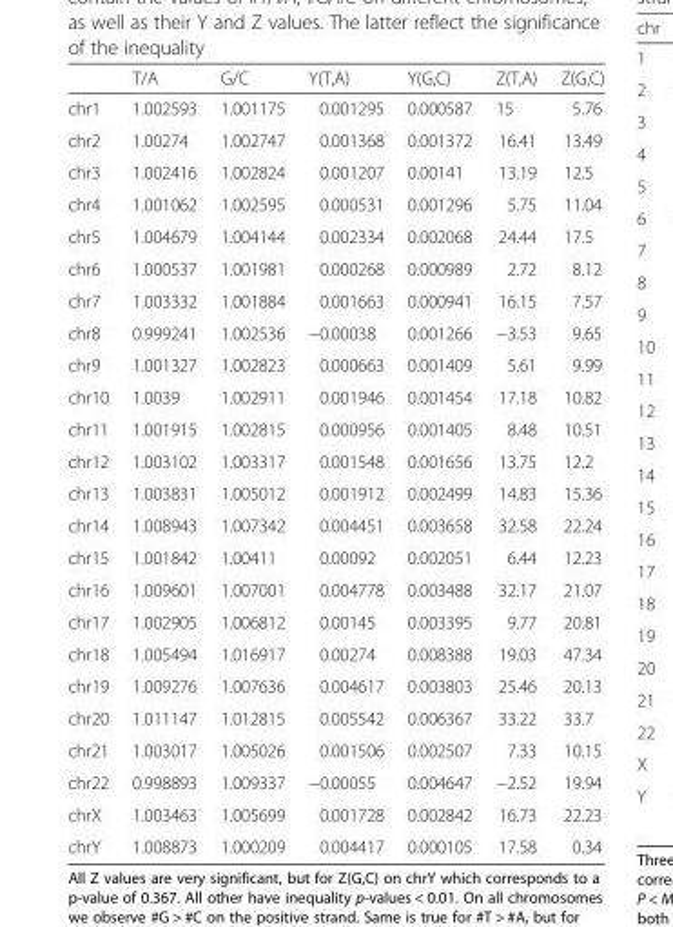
<table><thead><tr><td></td><td>T/A</td><td>G/C</td><td>Y(T,A)</td><td>Y(G,C)</td><td>Z(T,A)</td><td>Z(G,C)</td></tr></thead><tbody><tr><td>chr1</td><td>1.002593</td><td>1.001175</td><td>0.001295</td><td>0.000587</td><td>15</td><td>5.76</td></tr><tr><td>chr2</td><td>1.00274</td><td>1.002747</td><td>0.001368</td><td>0.001372</td><td>16.41</td><td>13.49</td></tr><tr><td>chr3</td><td>1.002416</td><td>1.002824</td><td>0.001207</td><td>0.00141</td><td>13.19</td><td>12.5</td></tr><tr><td>chr4</td><td>1.001062</td><td>1.002595</td><td>0.000531</td><td>0.001296</td><td>5.75</td><td>11.04</td></tr><tr><td>chr5</td><td>1.004679</td><td>1.004144</td><td>0.002334</td><td>0.002068</td><td>24.44</td><td>17.5</td></tr><tr><td>chr6</td><td>1.000537</td><td>1.001981</td><td>0.000268</td><td>0.000989</td><td>2.72</td><td>8.12</td></tr><tr><td>chr7</td><td>1.003332</td><td>1.001884</td><td>0.001663</td><td>0.000941</td><td>16.15</td><td>7.57</td></tr><tr><td>chr8</td><td>0.999241</td><td>1.002536</td><td>−0.00038</td><td>0.001266</td><td>−3.53</td><td>9.65</td></tr><tr><td>chr9</td><td>1.001327</td><td>1.002823</td><td>0.000663</td><td>0.001409</td><td>5.61</td><td>9.99</td></tr><tr><td>chr10</td><td>1.0039</td><td>1.002911</td><td>0.001946</td><td>0.001454</td><td>17.18</td><td>10.82</td></tr><tr><td>chr11</td><td>1.001915</td><td>1.002815</td><td>0.000956</td><td>0.001405</td><td>8.48</td><td>10.51</td></tr><tr><td>chr12</td><td>1.003102</td><td>1.003317</td><td>0.001548</td><td>0.001656</td><td>13.75</td><td>12.2</td></tr><tr><td>chr13</td><td>1.003831</td><td>1.005012</td><td>0.001912</td><td>0.002499</td><td>14.83</td><td>15.36</td></tr><tr><td>chr14</td><td>1.008943</td><td>1.007342</td><td>0.004451</td><td>0.003658</td><td>32.58</td><td>22.24</td></tr><tr><td>chr15</td><td>1.001842</td><td>1.00411</td><td>0.00092</td><td>0.002051</td><td>6.44</td><td>12.23</td></tr><tr><td>chr16</td><td>1.009601</td><td>1.007001</td><td>0.004778</td><td>0.003488</td><td>32.17</td><td>21.07</td></tr><tr><td>chr17</td><td>1.002905</td><td>1.006812</td><td>0.00145</td><td>0.003395</td><td>9.77</td><td>20.81</td></tr><tr><td>chr18</td><td>1.005494</td><td>1.016917</td><td>0.00274</td><td>0.008388</td><td>19.03</td><td>47.34</td></tr><tr><td>chr19</td><td>1.009276</td><td>1.007636</td><td>0.004617</td><td>0.003803</td><td>25.46</td><td>20.13</td></tr><tr><td>chr20</td><td>1.011147</td><td>1.012815</td><td>0.005542</td><td>0.006367</td><td>33.22</td><td>33.7</td></tr><tr><td>chr21</td><td>1.003017</td><td>1.005026</td><td>0.001506</td><td>0.002507</td><td>7.33</td><td>10.15</td></tr><tr><td>chr22</td><td>0.998893</td><td>1.009337</td><td>−0.00055</td><td>0.004647</td><td>−2.52</td><td>19.94</td></tr><tr><td>chrX</td><td>1.003463</td><td>1.005699</td><td>0.001728</td><td>0.002842</td><td>16.73</td><td>22.23</td></tr><tr><td>chrY</td><td>1.008873</td><td>1.000209</td><td>0.004417</td><td>0.000105</td><td>17.58</td><td>0.34</td></tr></tbody></table>